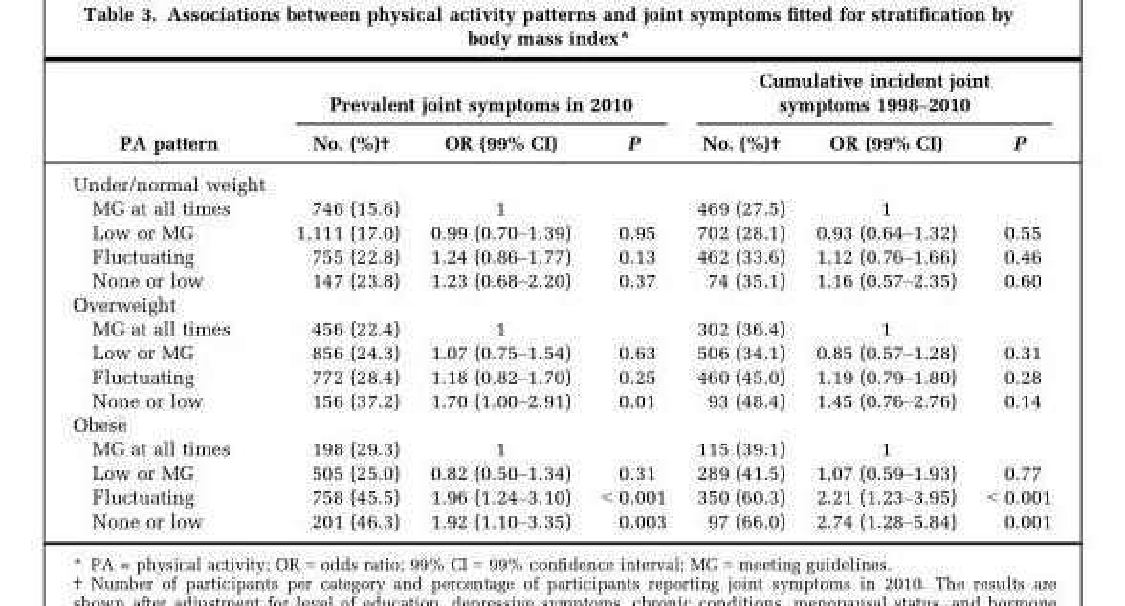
<table><thead><tr><td rowspan="2">PA pattern</td><td colspan="3">Prevalent joint symptoms in 2010</td><td colspan="3">Cumulative incident joint symptoms 1998–2010</td></tr><tr><td>No. (%)†</td><td>OR (99% CI)</td><td>P</td><td>No. (%)†</td><td>OR (99% CI)</td><td>P</td></tr></thead><tbody><tr><td colspan="7">Under/normal weight</td></tr><tr><td>MG at all times</td><td>746 (15.6)</td><td>1</td><td></td><td>469 (27.5)</td><td>1</td><td></td></tr><tr><td>Low or MG</td><td>1,111 (17.0)</td><td>0.99 (0.70–1.39)</td><td>0.95</td><td>702 (28.1)</td><td>0.93 (0.64–1.32)</td><td>0.55</td></tr><tr><td>Fluctuating</td><td>755 (22.8)</td><td>1.24 (0.86–1.77)</td><td>0.13</td><td>462 (33.6)</td><td>1.12 (0.76–1.66)</td><td>0.46</td></tr><tr><td>None or low</td><td>147 (23.8)</td><td>1.23 (0.68–2.20)</td><td>0.37</td><td>74 (35.1)</td><td>1.16 (0.57–2.35)</td><td>0.60</td></tr><tr><td colspan="7">Overweight</td></tr><tr><td>MG at all times</td><td>456 (22.4)</td><td>1</td><td></td><td>302 (36.4)</td><td>1</td><td></td></tr><tr><td>Low or MG</td><td>856 (24.3)</td><td>1.07 (0.75–1.54)</td><td>0.63</td><td>506 (34.1)</td><td>0.85 (0.57–1.28)</td><td>0.31</td></tr><tr><td>Fluctuating</td><td>772 (28.4)</td><td>1.18 (0.82–1.70)</td><td>0.25</td><td>460 (45.0)</td><td>1.19 (0.79–1.80)</td><td>0.28</td></tr><tr><td>None or low</td><td>156 (37.2)</td><td>1.70 (1.00–2.91)</td><td>0.01</td><td>93 (48.4)</td><td>1.45 (0.76–2.76)</td><td>0.14</td></tr><tr><td colspan="7">Obese</td></tr><tr><td>MG at all times</td><td>198 (29.3)</td><td>1</td><td></td><td>115 (39.1)</td><td>1</td><td></td></tr><tr><td>Low or MG</td><td>505 (25.0)</td><td>0.82 (0.50–1.34)</td><td>0.31</td><td>289 (41.5)</td><td>1.07 (0.59–1.93)</td><td>0.77</td></tr><tr><td>Fluctuating</td><td>758 (45.5)</td><td>1.96 (1.24–3.10)</td><td>&lt; 0.001</td><td>350 (60.3)</td><td>2.21 (1.23–3.95)</td><td>&lt; 0.001</td></tr><tr><td>None or low</td><td>201 (46.3)</td><td>1.92 (1.10–3.35)</td><td>0.003</td><td>97 (66.0)</td><td>2.74 (1.28–5.84)</td><td>0.001</td></tr></tbody></table>